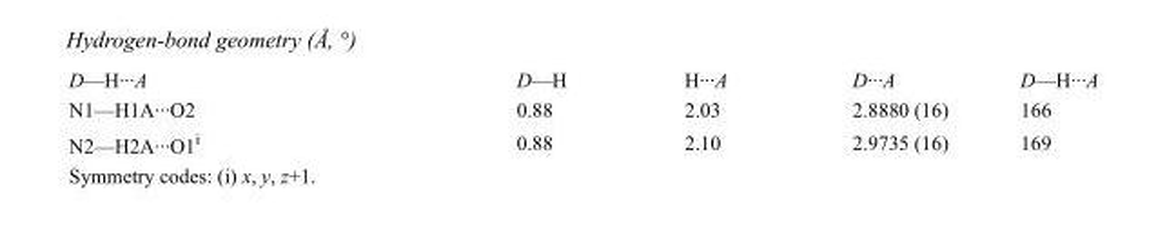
<table><tbody><tr><td>D—H···A</td><td>D—H</td><td>H···A</td><td>D···A</td><td>D—H···A</td></tr><tr><td>N1—H1A···O2</td><td>0.88</td><td>2.03</td><td>2.8880 (16)</td><td>166</td></tr><tr><td>N2—H2A···O1<sup>i</sup></td><td>0.88</td><td>2.10</td><td>2.9735 (16)</td><td>169</td></tr></tbody></table>